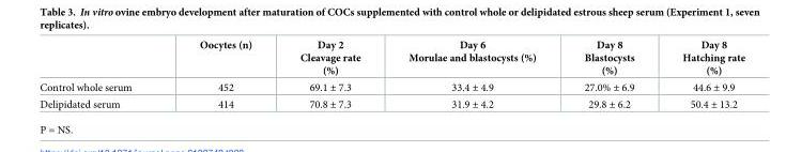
<table><thead><tr><td></td><td>Oocytes (n)</td><td>Day 2 Cleavage rate (%)</td><td>Day 6 Morulae and blastocysts (%)</td><td>Day 8 Blastocysts (%)</td><td>Day 8 Hatching rate (%)</td></tr></thead><tbody><tr><td>Control whole serum</td><td>452</td><td>69.1 ± 7.3</td><td>33.4 ± 4.9</td><td>27.0% ± 6.9</td><td>44.6 ± 9.9</td></tr><tr><td>Delipidated serum</td><td>414</td><td>70.8 ± 7.3</td><td>31.9 ± 4.2</td><td>29.8 ± 6.2</td><td>50.4 ± 13.2</td></tr></tbody></table>